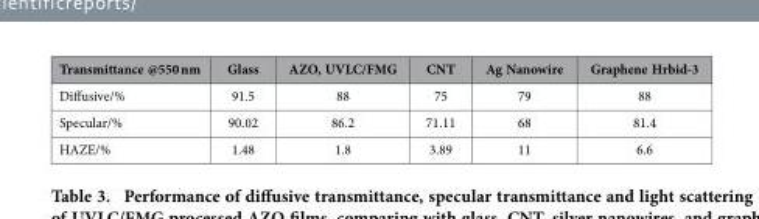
<table><thead><tr><td>Transmittance @550 nm</td><td>Glass</td><td>AZO, UVLC/FMG</td><td>CNT</td><td>Ag Nanowire</td><td>Graphene Hrbid-3</td></tr></thead><tbody><tr><td>Diffusive/%</td><td>91.5</td><td>88</td><td>75</td><td>79</td><td>88</td></tr><tr><td>Specular/%</td><td>90.02</td><td>86.2</td><td>71.11</td><td>68</td><td>81.4</td></tr><tr><td>HAZE/%</td><td>1.48</td><td>1.8</td><td>3.89</td><td>11</td><td>6.6</td></tr></tbody></table>